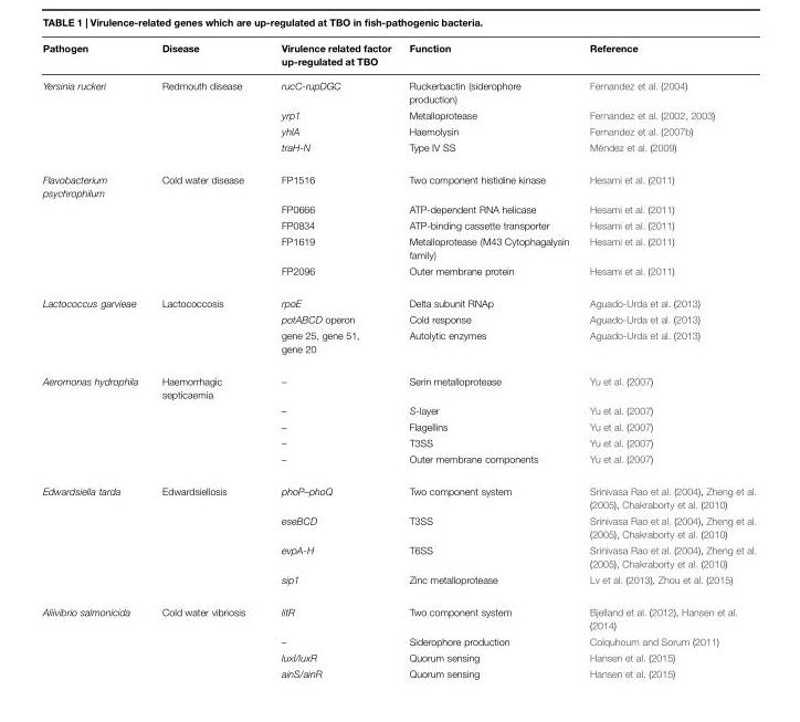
<table><thead><tr><td>Pathogen</td><td>Disease</td><td>Virulence related factor up-regulated at TBO</td><td>Function</td><td>Reference</td></tr></thead><tbody><tr><td rowspan="4">Yersinia ruckeri</td><td>Redmouth disease</td><td>rucC-rupDGC</td><td>Ruckerbactin (siderophore production)</td><td>Fernandez et al. (2004)</td></tr><tr><td></td><td>yrp1</td><td>Metalloprotease</td><td>Fernandez et al. (2002, 2003)</td></tr><tr><td></td><td>yhlA</td><td>Haemolysin</td><td>Fernandez et al. (2007b)</td></tr><tr><td></td><td>traH-N</td><td>Type IV SS</td><td>Méndez et al. (2009)</td></tr><tr><td rowspan="5">Flavobacterium psychrophilum</td><td>Cold water disease</td><td>FP1516</td><td>Two component histidine kinase</td><td>Hesami et al. (2011)</td></tr><tr><td></td><td>FP0666</td><td>ATP-dependent RNA helicase</td><td>Hesami et al. (2011)</td></tr><tr><td></td><td>FP0834</td><td>ATP-binding cassette transporter</td><td>Hesami et al. (2011)</td></tr><tr><td></td><td>FP1619</td><td>Metalloprotease (M43 Cytophagalysin family)</td><td>Hesami et al. (2011)</td></tr><tr><td></td><td>FP2096</td><td>Outer membrane protein</td><td>Hesami et al. (2011)</td></tr><tr><td rowspan="3">Lactococcus garvieae</td><td>Lactococcosis</td><td>rpoE</td><td>Delta subunit RNAp</td><td>Aguado-Urda et al. (2013)</td></tr><tr><td></td><td>potABCD operon</td><td>Cold response</td><td>Aguado-Urda et al. (2013)</td></tr><tr><td></td><td>gene 25, gene 51, gene 20</td><td>Autolytic enzymes</td><td>Aguado-Urda et al. (2013)</td></tr><tr><td rowspan="5">Aeromonas hydrophila</td><td>Haemorrhagic septicaemia</td><td>–</td><td>Serin metalloprotease</td><td>Yu et al. (2007)</td></tr><tr><td></td><td>–</td><td>S-layer</td><td>Yu et al. (2007)</td></tr><tr><td></td><td>–</td><td>Flagellins</td><td>Yu et al. (2007)</td></tr><tr><td></td><td>–</td><td>T3SS</td><td>Yu et al. (2007)</td></tr><tr><td></td><td>–</td><td>Outer membrane components</td><td>Yu et al. (2007)</td></tr><tr><td rowspan="4">Edwardsiella tarda</td><td>Edwardsiellosis</td><td>phoP–phoQ</td><td>Two component system</td><td>Srinivasa Rao et al. (2004), Zheng et al. (2005), Chakraborty et al. (2010)</td></tr><tr><td></td><td>eseBCD</td><td>T3SS</td><td>Srinivasa Rao et al. (2004), Zheng et al. (2005), Chakraborty et al. (2010)</td></tr><tr><td></td><td>evpA-H</td><td>T6SS</td><td>Srinivasa Rao et al. (2004), Zheng et al. (2005), Chakraborty et al. (2010)</td></tr><tr><td></td><td>sip1</td><td>Zinc metalloprotease</td><td>Lv et al. (2013), Zhou et al. (2015)</td></tr><tr><td rowspan="4">Aliivibrio salmonicida</td><td>Cold water vibriosis</td><td>litR</td><td>Two component system</td><td>Bjelland et al. (2012), Hansen et al. (2014)</td></tr><tr><td></td><td>–</td><td>Siderophore production</td><td>Colquhoum and Sorum (2011)</td></tr><tr><td></td><td>luxI/luxR</td><td>Quorum sensing</td><td>Hansen et al. (2015)</td></tr><tr><td></td><td>ainS/ainR</td><td>Quorum sensing</td><td>Hansen et al. (2015)</td></tr></tbody></table>